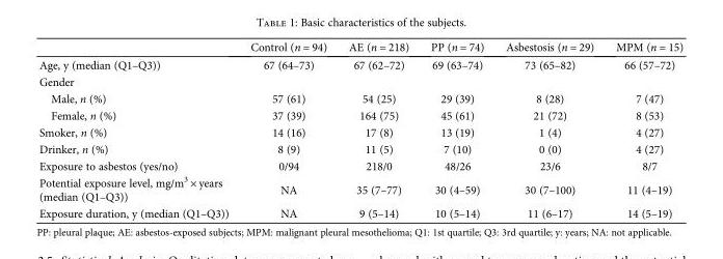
<table><thead><tr><td></td><td>Control (n = 94)</td><td>AE (n = 218)</td><td>PP (n = 74)</td><td>Asbestosis (n = 29)</td><td>MPM (n = 15)</td></tr></thead><tbody><tr><td>Age, y (median (Q1–Q3))</td><td>67 (64–73)</td><td>67 (62–72)</td><td>69 (63–74)</td><td>73 (65–82)</td><td>66 (57–72)</td></tr><tr><td colspan="6">Gender</td></tr><tr><td>Male, n (%)</td><td>57 (61)</td><td>54 (25)</td><td>29 (39)</td><td>8 (28)</td><td>7 (47)</td></tr><tr><td>Female, n (%)</td><td>37 (39)</td><td>164 (75)</td><td>45 (61)</td><td>21 (72)</td><td>8 (53)</td></tr><tr><td>Smoker, n (%)</td><td>14 (16)</td><td>17 (8)</td><td>13 (19)</td><td>1 (4)</td><td>4 (27)</td></tr><tr><td>Drinker, n (%)</td><td>8 (9)</td><td>11 (5)</td><td>7 (10)</td><td>0 (0)</td><td>4 (27)</td></tr><tr><td>Exposure to asbestos (yes/no)</td><td>0/94</td><td>218/0</td><td>48/26</td><td>23/6</td><td>8/7</td></tr><tr><td>Potential exposure level, mg/m<sup>3</sup> × years (median (Q1–Q3))</td><td>NA</td><td>35 (7–77)</td><td>30 (4–59)</td><td>30 (7–100)</td><td>11 (4–19)</td></tr><tr><td>Exposure duration, y (median (Q1–Q3))</td><td>NA</td><td>9 (5–14)</td><td>10 (5–14)</td><td>11 (6–17)</td><td>14 (5–19)</td></tr></tbody></table>